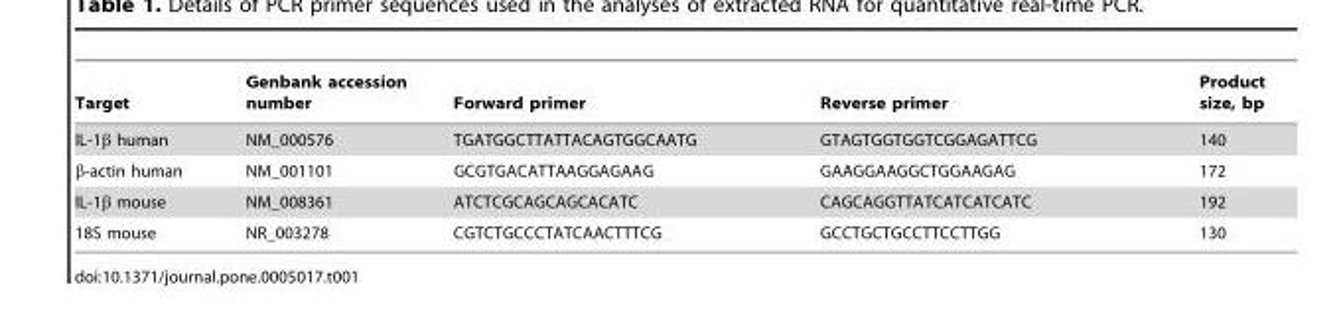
<table><thead><tr><td>Target</td><td>Genbank accession number</td><td>Forward primer</td><td>Reverse primer</td><td>Product size, bp</td></tr></thead><tbody><tr><td>IL-1β human</td><td>NM_000576</td><td>TGATGGCTTATTACAGTGGCAATG</td><td>GTAGTGGTGGTCGGAGATTCG</td><td>140</td></tr><tr><td>β-actin human</td><td>NM_001101</td><td>GCGTGACATTAAGGAGAAG</td><td>GAAGGAAGGCTGGAAGAG</td><td>172</td></tr><tr><td>IL-1β mouse</td><td>NM_008361</td><td>ATCTCGCAGCAGCACATC</td><td>CAGCAGGTTATCATCATCATC</td><td>192</td></tr><tr><td>18S mouse</td><td>NR_003278</td><td>CGTCTGCCCTATCAACTTTCG</td><td>GCCTGCTGCCTTCCTTGG</td><td>130</td></tr></tbody></table>